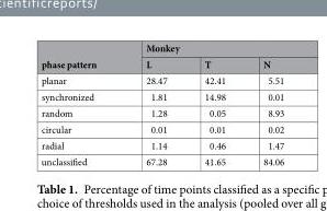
<table><thead><tr><td rowspan="2">phase pattern</td><td colspan="3">Monkey</td></tr><tr><td>L</td><td>T</td><td>N</td></tr></thead><tbody><tr><td>planar</td><td>28.47</td><td>42.41</td><td>5.51</td></tr><tr><td>synchronized</td><td>1.81</td><td>14.98</td><td>0.01</td></tr><tr><td>random</td><td>1.28</td><td>0.05</td><td>8.93</td></tr><tr><td>circular</td><td>0.01</td><td>0.01</td><td>0.02</td></tr><tr><td>radial</td><td>1.14</td><td>0.46</td><td>1.47</td></tr><tr><td>unclassified</td><td>67.28</td><td>41.65</td><td>84.06</td></tr></tbody></table>